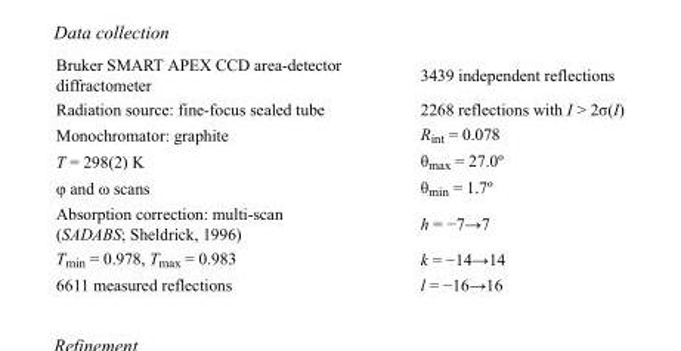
<table><tbody><tr><td>Bruker SMART APEX CCD area-detector diffractometer</td><td>3439 independent reflections</td></tr><tr><td>Radiation source: fine-focus sealed tube</td><td>2268 reflections with I &gt; 2σ(I)</td></tr><tr><td>Monochromator: graphite</td><td>R<sub>int</sub> = 0.078</td></tr><tr><td>T = 298(2) K</td><td>θ<sub>max</sub> = 27.0º</td></tr><tr><td>φ and ω scans</td><td>θ<sub>min</sub> = 1.7º</td></tr><tr><td>Absorption correction: multi-scan (SADABS; Sheldrick, 1996)</td><td>h = −7→7</td></tr><tr><td>T<sub>min</sub> = 0.978, T<sub>max</sub> = 0.983</td><td>k = −14→14</td></tr><tr><td>6611 measured reflections</td><td>l = −16→16</td></tr></tbody></table>